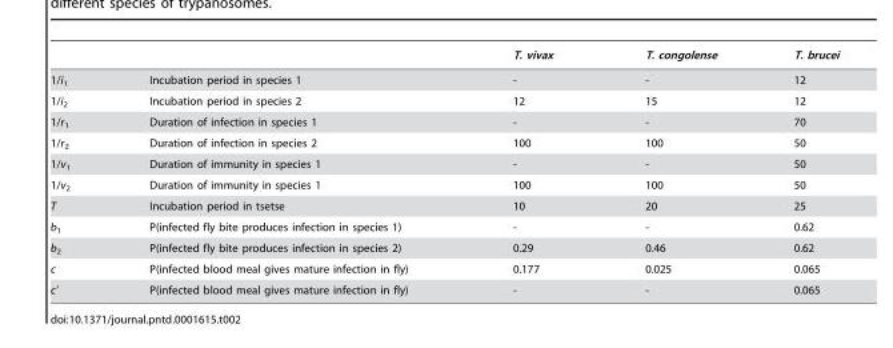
<table><thead><tr><td></td><td></td><td>T. vivax</td><td>T. congolense</td><td>T. brucei</td></tr></thead><tbody><tr><td>1/i<sub>1</sub></td><td>Incubation period in species 1</td><td>-</td><td>-</td><td>12</td></tr><tr><td>1/i<sub>2</sub></td><td>Incubation period in species 2</td><td>12</td><td>15</td><td>12</td></tr><tr><td>1/r<sub>1</sub></td><td>Duration of infection in species 1</td><td>-</td><td>-</td><td>70</td></tr><tr><td>1/r<sub>2</sub></td><td>Duration of infection in species 2</td><td>100</td><td>100</td><td>50</td></tr><tr><td>1/v<sub>1</sub></td><td>Duration of immunity in species 1</td><td>-</td><td>-</td><td>50</td></tr><tr><td>1/v<sub>2</sub></td><td>Duration of immunity in species 1</td><td>100</td><td>100</td><td>50</td></tr><tr><td>T</td><td>Incubation period in tsetse</td><td>10</td><td>20</td><td>25</td></tr><tr><td>b<sub>1</sub></td><td>P(infected fly bite produces infection in species 1)</td><td>-</td><td>-</td><td>0.62</td></tr><tr><td>b<sub>2</sub></td><td>P(infected fly bite produces infection in species 2)</td><td>0.29</td><td>0.46</td><td>0.62</td></tr><tr><td>c</td><td>P(infected blood meal gives mature infection in fly)</td><td>0.177</td><td>0.025</td><td>0.065</td></tr><tr><td>c′</td><td>P(infected blood meal gives mature infection in fly)</td><td>-</td><td>-</td><td>0.065</td></tr></tbody></table>